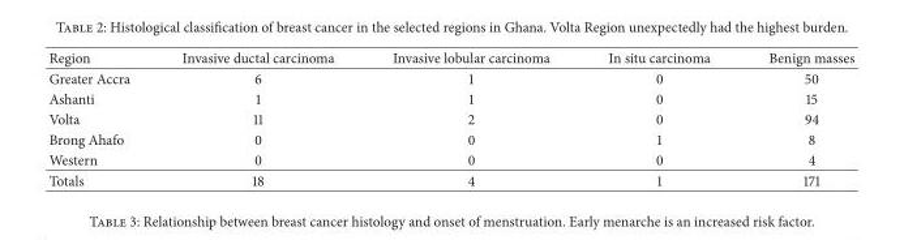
<table><thead><tr><td>Region</td><td>Invasive ductal carcinoma</td><td>Invasive lobular carcinoma</td><td>In situ carcinoma</td><td>Benign masses</td></tr></thead><tbody><tr><td>Greater Accra</td><td>6</td><td>1</td><td>0</td><td>50</td></tr><tr><td>Ashanti</td><td>1</td><td>1</td><td>0</td><td>15</td></tr><tr><td>Volta</td><td>11</td><td>2</td><td>0</td><td>94</td></tr><tr><td>Brong Ahafo</td><td>0</td><td>0</td><td>1</td><td>8</td></tr><tr><td>Western</td><td>0</td><td>0</td><td>0</td><td>4</td></tr><tr><td>Totals</td><td>18</td><td>4</td><td>1</td><td>171</td></tr></tbody></table>